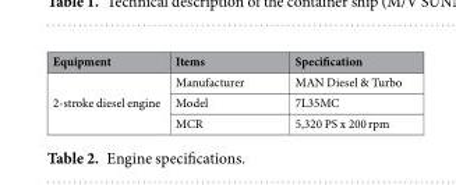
<table><thead><tr><td>Equipment</td><td>Items</td><td>Specification</td></tr></thead><tbody><tr><td rowspan="3">2-stroke diesel engine</td><td>Manufacturer</td><td>MAN Diesel &amp; Turbo</td></tr><tr><td>Model</td><td>7L35MC</td></tr><tr><td>MCR</td><td>5,320 PS x 200 rpm</td></tr></tbody></table>